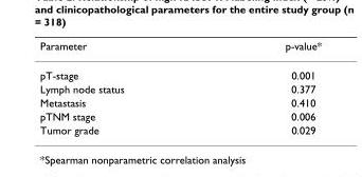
<table><thead><tr><td>Parameter</td><td>p-value*</td></tr></thead><tbody><tr><td>pT-stage</td><td>0.001</td></tr><tr><td>Lymph node status</td><td>0.377</td></tr><tr><td>Metastasis</td><td>0.410</td></tr><tr><td>pTNM stage</td><td>0.006</td></tr><tr><td>Tumor grade</td><td>0.029</td></tr></tbody></table>